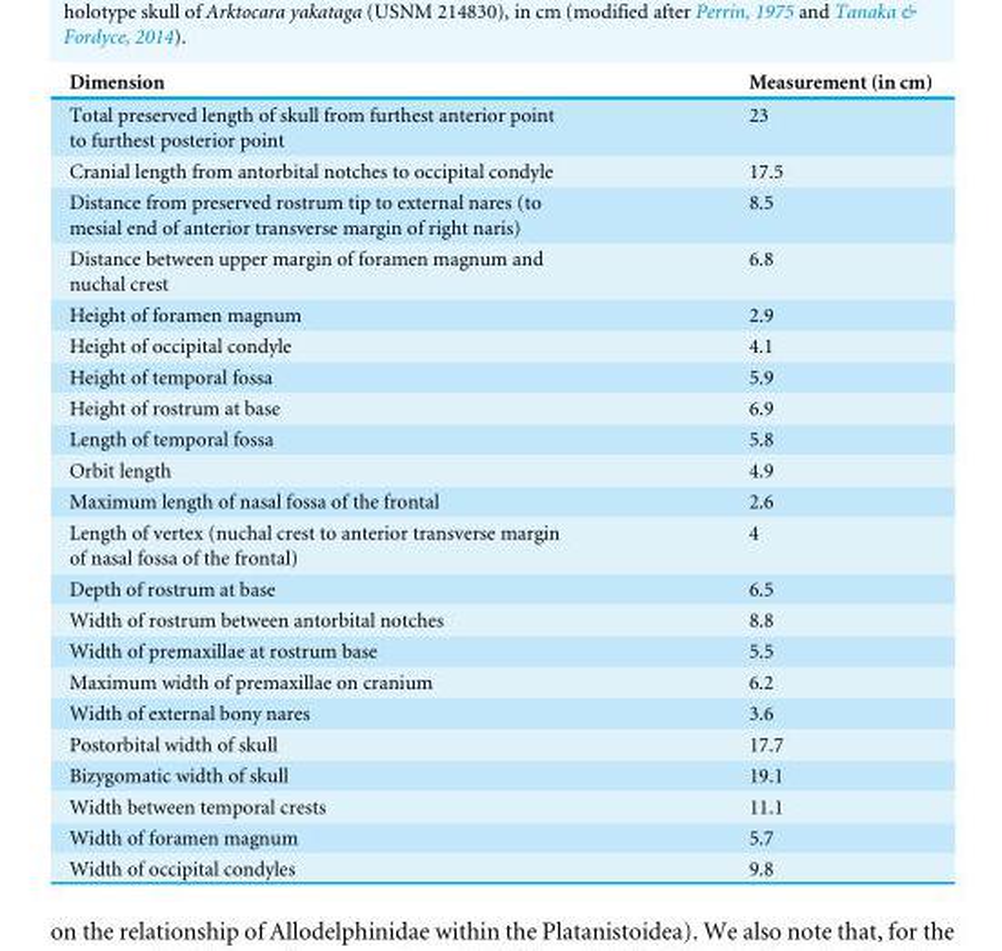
<table><thead><tr><td>Dimension</td><td>Measurement (in cm)</td></tr></thead><tbody><tr><td>Total preserved length of skull from furthest anterior point to furthest posterior point</td><td>23</td></tr><tr><td>Cranial length from antorbital notches to occipital condyle</td><td>17.5</td></tr><tr><td>Distance from preserved rostrum tip to external nares (to mesial end of anterior transverse margin of right naris)</td><td>8.5</td></tr><tr><td>Distance between upper margin of foramen magnum and nuchal crest</td><td>6.8</td></tr><tr><td>Height of foramen magnum</td><td>2.9</td></tr><tr><td>Height of occipital condyle</td><td>4.1</td></tr><tr><td>Height of temporal fossa</td><td>5.9</td></tr><tr><td>Height of rostrum at base</td><td>6.9</td></tr><tr><td>Length of temporal fossa</td><td>5.8</td></tr><tr><td>Orbit length</td><td>4.9</td></tr><tr><td>Maximum length of nasal fossa of the frontal</td><td>2.6</td></tr><tr><td>Length of vertex (nuchal crest to anterior transverse margin of nasal fossa of the frontal)</td><td>4</td></tr><tr><td>Depth of rostrum at base</td><td>6.5</td></tr><tr><td>Width of rostrum between antorbital notches</td><td>8.8</td></tr><tr><td>Width of premaxillae at rostrum base</td><td>5.5</td></tr><tr><td>Maximum width of premaxillae on cranium</td><td>6.2</td></tr><tr><td>Width of external bony nares</td><td>3.6</td></tr><tr><td>Postorbital width of skull</td><td>17.7</td></tr><tr><td>Bizygomatic width of skull</td><td>19.1</td></tr><tr><td>Width between temporal crests</td><td>11.1</td></tr><tr><td>Width of foramen magnum</td><td>5.7</td></tr><tr><td>Width of occipital condyles</td><td>9.8</td></tr></tbody></table>